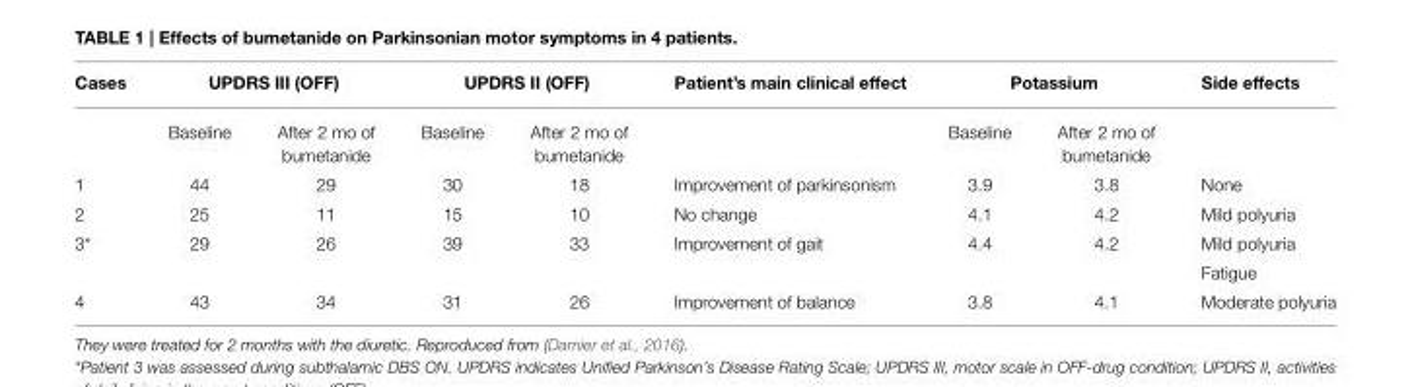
<table><thead><tr><td rowspan="2">Cases</td><td colspan="2">UPDRS III (OFF)</td><td colspan="2">UPDRS II (OFF)</td><td rowspan="2">Patient’s main clinical effect</td><td colspan="2">Potassium</td><td rowspan="2">Side effects</td></tr><tr><td>Baseline</td><td>After 2 mo of bumetanide</td><td>Baseline</td><td>After 2 mo of bumetanide</td><td>Baseline</td><td>After 2 mo of bumetanide</td></tr></thead><tbody><tr><td>1</td><td>44</td><td>29</td><td>30</td><td>18</td><td>Improvement of parkinsonism</td><td>3.9</td><td>3.8</td><td>None</td></tr><tr><td>2</td><td>25</td><td>11</td><td>15</td><td>10</td><td>No change</td><td>4.1</td><td>4.2</td><td>Mild polyuria</td></tr><tr><td rowspan="2">3*</td><td>29</td><td>26</td><td>39</td><td>33</td><td>Improvement of gait</td><td>4.4</td><td>4.2</td><td>Mild polyuria</td></tr><tr><td></td><td></td><td></td><td></td><td></td><td></td><td></td><td>Fatigue</td></tr><tr><td>4</td><td>43</td><td>34</td><td>31</td><td>26</td><td>Improvement of balance</td><td>3.8</td><td>4.1</td><td>Moderate polyuria</td></tr></tbody></table>